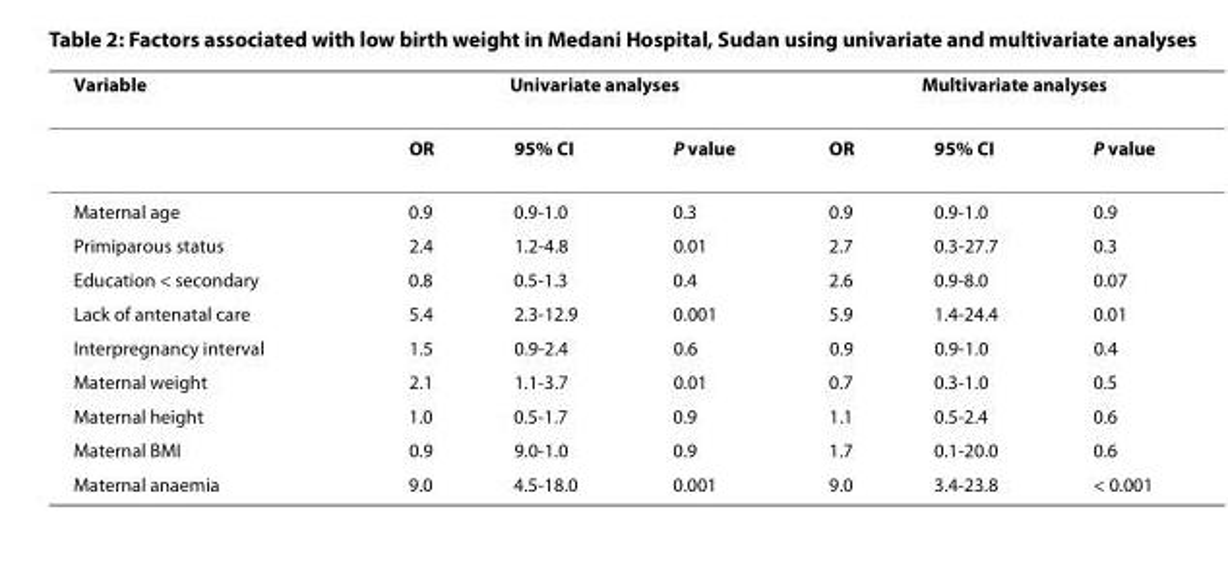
<table><thead><tr><td rowspan="2">Variable</td><td colspan="3">Univariate analyses</td><td colspan="3">Multivariate analyses</td></tr><tr><td>OR</td><td>95% CI</td><td>P value</td><td>OR</td><td>95% CI</td><td>P value</td></tr></thead><tbody><tr><td>Maternal age</td><td>0.9</td><td>0.9-1.0</td><td>0.3</td><td>0.9</td><td>0.9-1.0</td><td>0.9</td></tr><tr><td>Primiparous status</td><td>2.4</td><td>1.2-4.8</td><td>0.01</td><td>2.7</td><td>0.3-27.7</td><td>0.3</td></tr><tr><td>Education &lt; secondary</td><td>0.8</td><td>0.5-1.3</td><td>0.4</td><td>2.6</td><td>0.9-8.0</td><td>0.07</td></tr><tr><td>Lack of antenatal care</td><td>5.4</td><td>2.3-12.9</td><td>0.001</td><td>5.9</td><td>1.4-24.4</td><td>0.01</td></tr><tr><td>Interpregnancy interval</td><td>1.5</td><td>0.9-2.4</td><td>0.6</td><td>0.9</td><td>0.9-1.0</td><td>0.4</td></tr><tr><td>Maternal weight</td><td>2.1</td><td>1.1-3.7</td><td>0.01</td><td>0.7</td><td>0.3-1.0</td><td>0.5</td></tr><tr><td>Maternal height</td><td>1.0</td><td>0.5-1.7</td><td>0.9</td><td>1.1</td><td>0.5-2.4</td><td>0.6</td></tr><tr><td>Maternal BMI</td><td>0.9</td><td>9.0-1.0</td><td>0.9</td><td>1.7</td><td>0.1-20.0</td><td>0.6</td></tr><tr><td>Maternal anaemia</td><td>9.0</td><td>4.5-18.0</td><td>0.001</td><td>9.0</td><td>3.4-23.8</td><td>&lt; 0.001</td></tr></tbody></table>